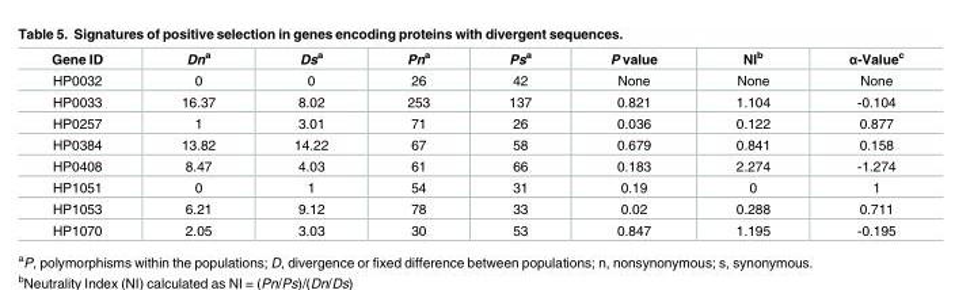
<table><thead><tr><td>Gene ID</td><td>Dn<sup>a</sup></td><td>Ds<sup>a</sup></td><td>Pn<sup>a</sup></td><td>Ps<sup>a</sup></td><td>P value</td><td>NI<sup>b</sup></td><td>α-Value<sup>c</sup></td></tr></thead><tbody><tr><td>HP0032</td><td>0</td><td>0</td><td>26</td><td>42</td><td>None</td><td>None</td><td>None</td></tr><tr><td>HP0033</td><td>16.37</td><td>8.02</td><td>253</td><td>137</td><td>0.821</td><td>1.104</td><td>-0.104</td></tr><tr><td>HP0257</td><td>1</td><td>3.01</td><td>71</td><td>26</td><td>0.036</td><td>0.122</td><td>0.877</td></tr><tr><td>HP0384</td><td>13.82</td><td>14.22</td><td>67</td><td>58</td><td>0.679</td><td>0.841</td><td>0.158</td></tr><tr><td>HP0408</td><td>8.47</td><td>4.03</td><td>61</td><td>66</td><td>0.183</td><td>2.274</td><td>-1.274</td></tr><tr><td>HP1051</td><td>0</td><td>1</td><td>54</td><td>31</td><td>0.19</td><td>0</td><td>1</td></tr><tr><td>HP1053</td><td>6.21</td><td>9.12</td><td>78</td><td>33</td><td>0.02</td><td>0.288</td><td>0.711</td></tr><tr><td>HP1070</td><td>2.05</td><td>3.03</td><td>30</td><td>53</td><td>0.847</td><td>1.195</td><td>-0.195</td></tr></tbody></table>